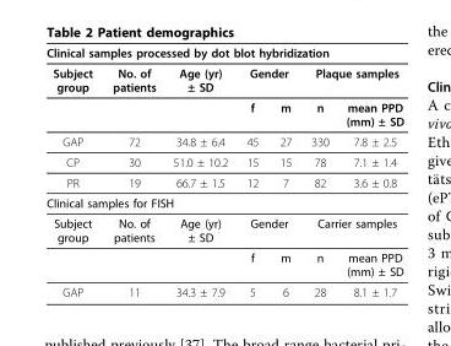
<table><thead><tr><td colspan="7">Clinical samples processed by dot blot hybridization</td></tr><tr><td rowspan="2">Subject group</td><td rowspan="2">No. of patients</td><td rowspan="2">Age (yr) ± SD</td><td colspan="2">Gender</td><td colspan="2">Plaque samples</td></tr><tr><td>f</td><td>m</td><td>n</td><td>mean PPD (mm) ± SD</td></tr></thead><tbody><tr><td>GAP</td><td>72</td><td>34.8 ± 6.4</td><td>45</td><td>27</td><td>330</td><td>7.8 ± 2.5</td></tr><tr><td>CP</td><td>30</td><td>51.0 ± 10.2</td><td>15</td><td>15</td><td>78</td><td>7.1 ± 1.4</td></tr><tr><td>PR</td><td>19</td><td>66.7 ± 1.5</td><td>12</td><td>7</td><td>82</td><td>3.6 ± 0.8</td></tr><tr><td colspan="7">Clinical samples for FISH</td></tr><tr><td rowspan="2">Subject group</td><td>No. of patients</td><td>Age (yr) ± SD</td><td colspan="2">Gender</td><td colspan="2">Carrier samples</td></tr><tr><td></td><td></td><td>f</td><td>m</td><td>n</td><td>mean PPD (mm) ± SD</td></tr><tr><td>GAP</td><td>11</td><td>34.3 ± 7.9</td><td>5</td><td>6</td><td>28</td><td>8.1 ± 1.7</td></tr></tbody></table>